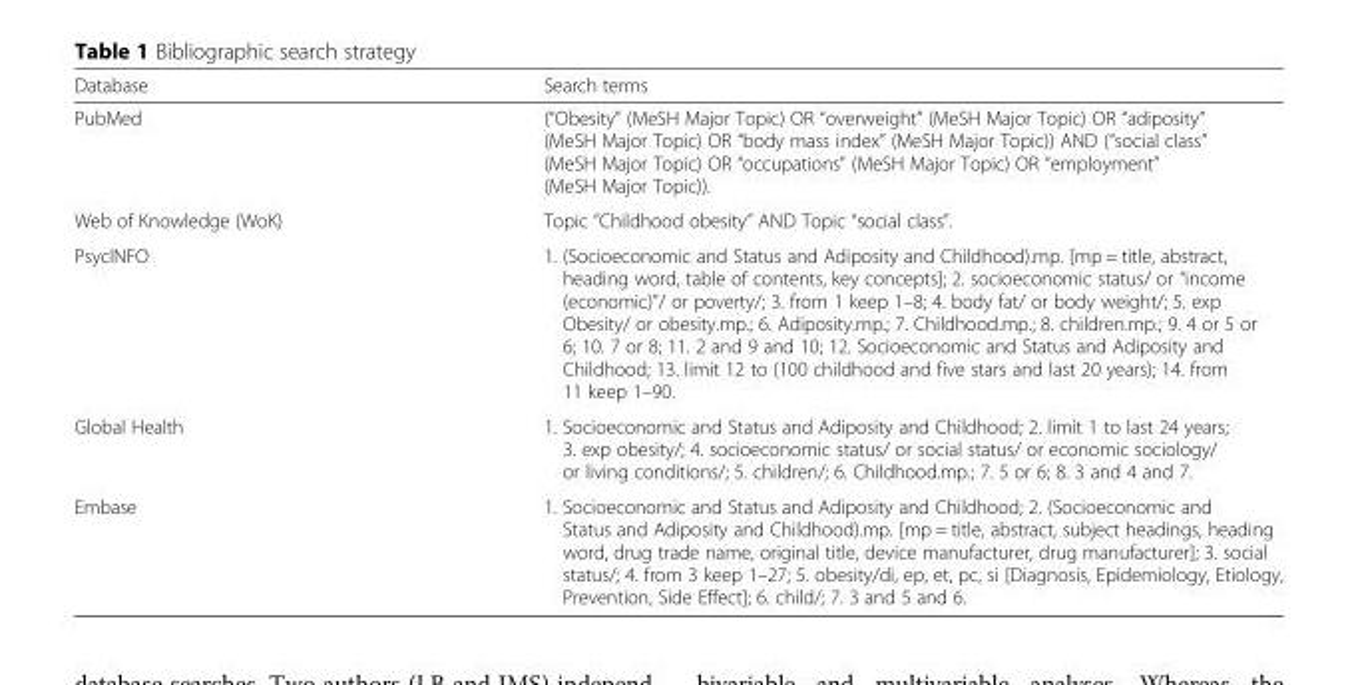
<table><thead><tr><td>Database</td><td>Search terms</td></tr></thead><tbody><tr><td>PubMed</td><td>(“Obesity” (MeSH Major Topic) OR “overweight” (MeSH Major Topic) OR “adiposity” (MeSH Major Topic) OR “body mass index” (MeSH Major Topic)) AND (“social class” (MeSH Major Topic) OR “occupations” (MeSH Major Topic) OR “employment” (MeSH Major Topic)).</td></tr><tr><td>Web of Knowledge (WoK)</td><td>Topic “Childhood obesity” AND Topic “social class”.</td></tr><tr><td>PsycINFO</td><td>1. (Socioeconomic and Status and Adiposity and Childhood).mp. [mp = title, abstract, heading word, table of contents, key concepts]; 2. socioeconomic status/ or “income (economic)”/ or poverty/; 3. from 1 keep 1–8; 4. body fat/ or body weight/; 5. exp Obesity/ or obesity.mp.; 6. Adiposity.mp.; 7. Childhood.mp.; 8. children.mp.; 9. 4 or 5 or 6; 10. 7 or 8; 11. 2 and 9 and 10; 12. Socioeconomic and Status and Adiposity and Childhood; 13. limit 12 to (100 childhood and five stars and last 20 years); 14. from 11 keep 1–90.</td></tr><tr><td>Global Health</td><td>1. Socioeconomic and Status and Adiposity and Childhood; 2. limit 1 to last 24 years; 3. exp obesity/; 4. socioeconomic status/ or social status/ or economic sociology/ or living conditions/; 5. children/; 6. Childhood.mp.; 7. 5 or 6; 8. 3 and 4 and 7.</td></tr><tr><td>Embase</td><td>1. Socioeconomic and Status and Adiposity and Childhood; 2. (Socioeconomic and Status and Adiposity and Childhood).mp. [mp = title, abstract, subject headings, heading word, drug trade name, original title, device manufacturer, drug manufacturer]; 3. social status/; 4. from 3 keep 1–27; 5. obesity/di, ep, et, pc, si [Diagnosis, Epidemiology, Etiology, Prevention, Side Effect]; 6. child/; 7. 3 and 5 and 6.</td></tr></tbody></table>